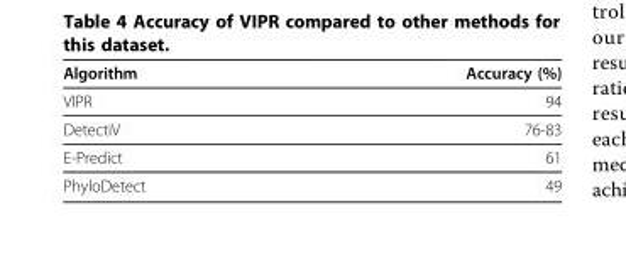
<table><thead><tr><td>Algorithm</td><td>Accuracy (%)</td></tr></thead><tbody><tr><td>VIPR</td><td>94</td></tr><tr><td>DetectiV</td><td>76-83</td></tr><tr><td>E-Predict</td><td>61</td></tr><tr><td>PhyloDetect</td><td>49</td></tr></tbody></table>